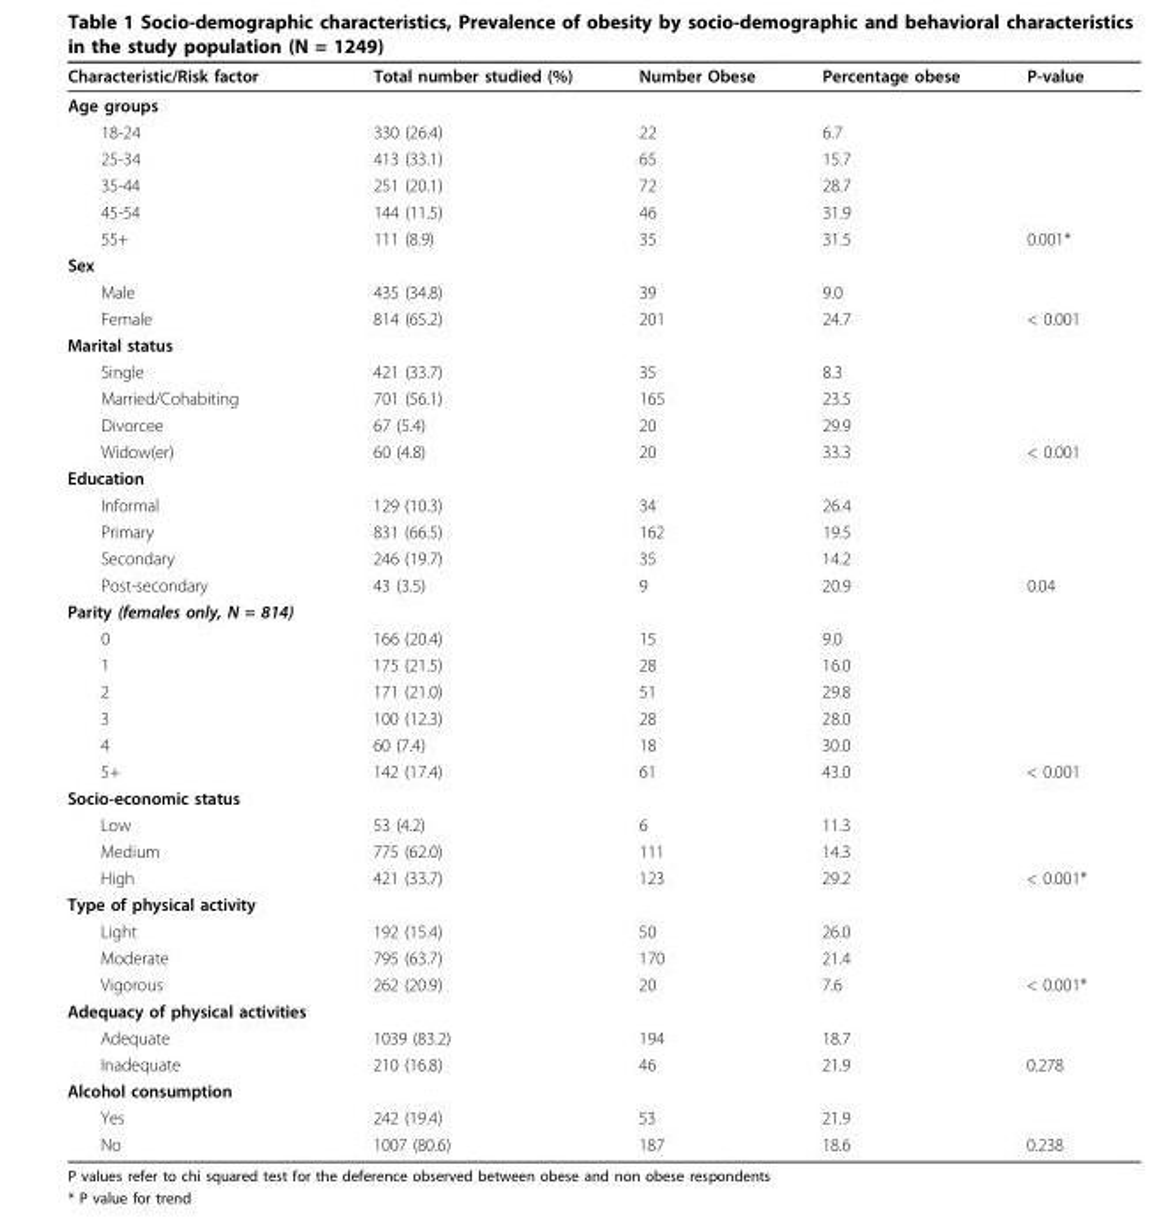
<table><thead><tr><td>Characteristic/Risk factor</td><td>Total number studied (%)</td><td>Number Obese</td><td>Percentage obese</td><td>P-value</td></tr></thead><tbody><tr><td colspan="5">Age groups</td></tr><tr><td>18-24</td><td>330 (26.4)</td><td>22</td><td>6.7</td><td></td></tr><tr><td>25-34</td><td>413 (33.1)</td><td>65</td><td>15.7</td><td></td></tr><tr><td>35-44</td><td>251 (20.1)</td><td>72</td><td>28.7</td><td></td></tr><tr><td>45-54</td><td>144 (11.5)</td><td>46</td><td>31.9</td><td></td></tr><tr><td>55+</td><td>111 (8.9)</td><td>35</td><td>31.5</td><td>0.001*</td></tr><tr><td colspan="5">Sex</td></tr><tr><td>Male</td><td>435 (34.8)</td><td>39</td><td>9.0</td><td></td></tr><tr><td>Female</td><td>814 (65.2)</td><td>201</td><td>24.7</td><td>&lt; 0.001</td></tr><tr><td colspan="5">Marital status</td></tr><tr><td>Single</td><td>421 (33.7)</td><td>35</td><td>8.3</td><td></td></tr><tr><td>Married/Cohabiting</td><td>701 (56.1)</td><td>165</td><td>23.5</td><td></td></tr><tr><td>Divorcee</td><td>67 (5.4)</td><td>20</td><td>29.9</td><td></td></tr><tr><td>Widow(er)</td><td>60 (4.8)</td><td>20</td><td>33.3</td><td>&lt; 0.001</td></tr><tr><td colspan="5">Education</td></tr><tr><td>Informal</td><td>129 (10.3)</td><td>34</td><td>26.4</td><td></td></tr><tr><td>Primary</td><td>831 (66.5)</td><td>162</td><td>19.5</td><td></td></tr><tr><td>Secondary</td><td>246 (19.7)</td><td>35</td><td>14.2</td><td></td></tr><tr><td>Post-secondary</td><td>43 (3.5)</td><td>9</td><td>20.9</td><td>0.04</td></tr><tr><td colspan="5">Parity (females only, N = 814)</td></tr><tr><td>0</td><td>166 (20.4)</td><td>15</td><td>9.0</td><td></td></tr><tr><td>1</td><td>175 (21.5)</td><td>28</td><td>16.0</td><td></td></tr><tr><td>2</td><td>171 (21.0)</td><td>51</td><td>29.8</td><td></td></tr><tr><td>3</td><td>100 (12.3)</td><td>28</td><td>28.0</td><td></td></tr><tr><td>4</td><td>60 (7.4)</td><td>18</td><td>30.0</td><td></td></tr><tr><td>5+</td><td>142 (17.4)</td><td>61</td><td>43.0</td><td>&lt; 0.001</td></tr><tr><td colspan="5">Socio-economic status</td></tr><tr><td>Low</td><td>53 (4.2)</td><td>6</td><td>11.3</td><td></td></tr><tr><td>Medium</td><td>775 (62.0)</td><td>111</td><td>14.3</td><td></td></tr><tr><td>High</td><td>421 (33.7)</td><td>123</td><td>29.2</td><td>&lt; 0.001*</td></tr><tr><td colspan="5">Type of physical activity</td></tr><tr><td>Light</td><td>192 (15.4)</td><td>50</td><td>26.0</td><td></td></tr><tr><td>Moderate</td><td>795 (63.7)</td><td>170</td><td>21.4</td><td></td></tr><tr><td>Vigorous</td><td>262 (20.9)</td><td>20</td><td>7.6</td><td>&lt; 0.001*</td></tr><tr><td colspan="5">Adequacy of physical activities</td></tr><tr><td>Adequate</td><td>1039 (83.2)</td><td>194</td><td>18.7</td><td></td></tr><tr><td>Inadequate</td><td>210 (16.8)</td><td>46</td><td>21.9</td><td>0.278</td></tr><tr><td colspan="5">Alcohol consumption</td></tr><tr><td>Yes</td><td>242 (19.4)</td><td>53</td><td>21.9</td><td></td></tr><tr><td>No</td><td>1007 (80.6)</td><td>187</td><td>18.6</td><td>0.238</td></tr></tbody></table>